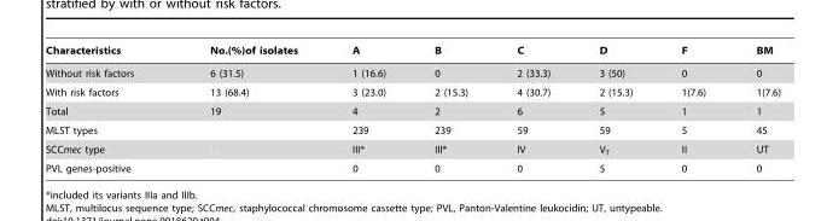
<table><thead><tr><td>Characteristics</td><td>No.(%)of isolates</td><td>A</td><td>B</td><td>C</td><td>D</td><td>F</td><td>BM</td></tr></thead><tbody><tr><td>Without risk factors</td><td>6 (31.5)</td><td>1 (16.6)</td><td>0</td><td>2 (33.3)</td><td>3 (50)</td><td>0</td><td>0</td></tr><tr><td>With risk factors</td><td>13 (68.4)</td><td>3 (23.0)</td><td>2 (15.3)</td><td>4 (30.7)</td><td>2 (15.3)</td><td>1(7.6)</td><td>1(7.6)</td></tr><tr><td>Total</td><td>19</td><td>4</td><td>2</td><td>6</td><td>5</td><td>1</td><td>1</td></tr><tr><td>MLST types</td><td></td><td>239</td><td>239</td><td>59</td><td>59</td><td>5</td><td>45</td></tr><tr><td>SCCmec type</td><td></td><td>III*</td><td>III*</td><td>IV</td><td>V<sub>T</sub></td><td>II</td><td>UT</td></tr><tr><td>PVL genes-positive</td><td></td><td>0</td><td>0</td><td>0</td><td>5</td><td>0</td><td>0</td></tr></tbody></table>